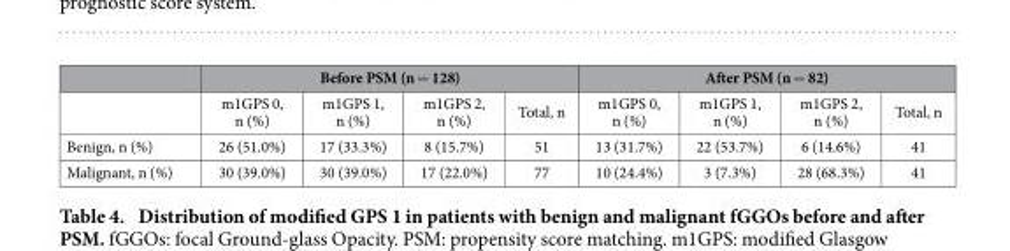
<table><thead><tr><td rowspan="2"></td><td colspan="4">Before PSM (n = 128)</td><td colspan="4">After PSM (n = 82)</td></tr><tr><td>m1GPS 0, n (%)</td><td>m1GPS 1, n (%)</td><td>m1GPS 2, n (%)</td><td>Total, n</td><td>m1GPS 0, n (%)</td><td>m1GPS 1, n (%)</td><td>m1GPS 2, n (%)</td><td>Total, n</td></tr></thead><tbody><tr><td>Benign, n (%)</td><td>26 (51.0%)</td><td>17 (33.3%)</td><td>8 (15.7%)</td><td>51</td><td>13 (31.7%)</td><td>22 (53.7%)</td><td>6 (14.6%)</td><td>41</td></tr><tr><td>Malignant, n (%)</td><td>30 (39.0%)</td><td>30 (39.0%)</td><td>17 (22.0%)</td><td>77</td><td>10 (24.4%)</td><td>3 (7.3%)</td><td>28 (68.3%)</td><td>41</td></tr></tbody></table>